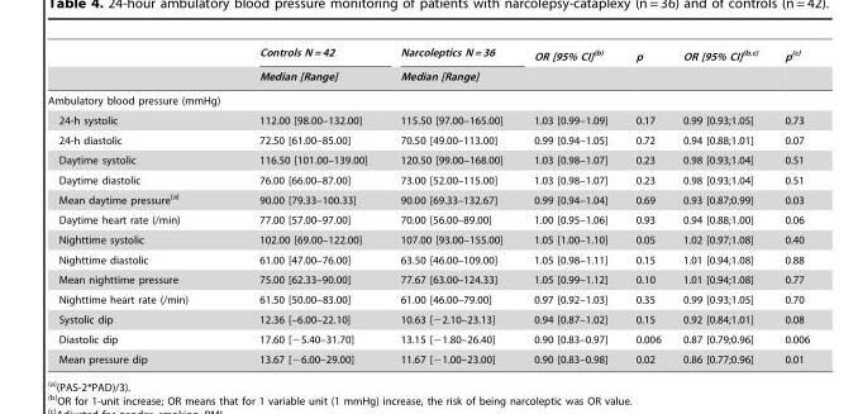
<table><thead><tr><td rowspan="2"></td><td rowspan="2">Controls N = 42 Median [Range]</td><td rowspan="2">Narcoleptics N = 36 Median [Range]</td><td rowspan="2">OR [95% CI](b)</td><td rowspan="2">p</td><td rowspan="2">OR [95% CI]<sup>(b,c)</sup></td><td rowspan="2">p(c)</td></tr><tr></tr></thead><tbody><tr><td colspan="7">Ambulatory blood pressure (mmHg)</td></tr><tr><td>24-h systolic</td><td>112.00 [98.00–132.00]</td><td>115.50 [97.00–165.00]</td><td>1.03 [0.99–1.09]</td><td>0.17</td><td>0.99 [0.93;1.05]</td><td>0.73</td></tr><tr><td>24-h diastolic</td><td>72.50 [61.00–85.00]</td><td>70.50 [49.00–113.00]</td><td>0.99 [0.94–1.05]</td><td>0.72</td><td>0.94 [0.88;1.01]</td><td>0.07</td></tr><tr><td>Daytime systolic</td><td>116.50 [101.00–139.00]</td><td>120.50 [99.00–168.00]</td><td>1.03 [0.98–1.07]</td><td>0.23</td><td>0.98 [0.93;1.04]</td><td>0.51</td></tr><tr><td>Daytime diastolic</td><td>76.00 [66.00–87.00]</td><td>73.00 [52.00–115.00]</td><td>1.03 [0.98–1.07]</td><td>0.23</td><td>0.98 [0.93;1.04]</td><td>0.51</td></tr><tr><td>Mean daytime pressure(a)</td><td>90.00 [79.33–100.33]</td><td>90.00 [69.33–132.67]</td><td>0.99 [0.94–1.04]</td><td>0.69</td><td>0.93 [0.87;0.99]</td><td>0.03</td></tr><tr><td>Daytime heart rate (/min)</td><td>77.00 [57.00–97.00]</td><td>70.00 [56.00–89.00]</td><td>1.00 [0.95–1.06]</td><td>0.93</td><td>0.94 [0.88;1.00]</td><td>0.06</td></tr><tr><td>Nighttime systolic</td><td>102.00 [69.00–122.00]</td><td>107.00 [93.00–155.00]</td><td>1.05 [1.00–1.10]</td><td>0.05</td><td>1.02 [0.97;1.08]</td><td>0.40</td></tr><tr><td>Nighttime diastolic</td><td>61.00 [47.00–76.00]</td><td>63.50 [46.00–109.00]</td><td>1.05 [0.98–1.11]</td><td>0.15</td><td>1.01 [0.94;1.08]</td><td>0.88</td></tr><tr><td>Mean nighttime pressure</td><td>75.00 [62.33–90.00]</td><td>77.67 [63.00–124.33]</td><td>1.05 [0.99–1.12]</td><td>0.10</td><td>1.01 [0.94;1.08]</td><td>0.77</td></tr><tr><td>Nighttime heart rate (/min)</td><td>61.50 [50.00–83.00]</td><td>61.00 [46.00–79.00]</td><td>0.97 [0.92–1.03]</td><td>0.35</td><td>0.99 [0.93;1.05]</td><td>0.70</td></tr><tr><td>Systolic dip</td><td>12.36 [–6.00–22.10]</td><td>10.63 [−2.10–23.13]</td><td>0.94 [0.87–1.02]</td><td>0.15</td><td>0.92 [0.84;1.01]</td><td>0.08</td></tr><tr><td>Diastolic dip</td><td>17.60 [−5.40–31.70]</td><td>13.15 [−1.80–26.40]</td><td>0.90 [0.83–0.97]</td><td>0.006</td><td>0.87 [0.79;0.96]</td><td>0.006</td></tr><tr><td>Mean pressure dip</td><td>13.67 [−6.00–29.00]</td><td>11.67 [−1.00–23.00]</td><td>0.90 [0.83–0.98]</td><td>0.02</td><td>0.86 [0.77;0.96]</td><td>0.01</td></tr></tbody></table>